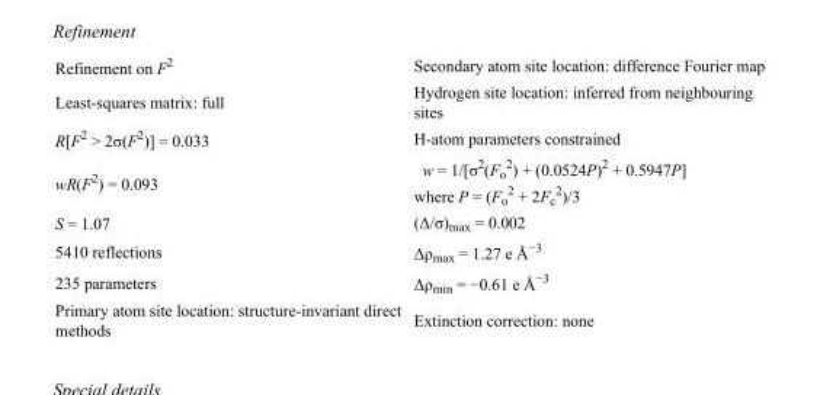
<table><tbody><tr><td>Refinement on F<sup>2</sup></td><td>Secondary atom site location: difference Fourier map</td></tr><tr><td>Least-squares matrix: full</td><td>Hydrogen site location: inferred from neighbouring sites</td></tr><tr><td>R[F<sup>2</sup> &gt; 2σ(F<sup>2</sup>)] = 0.033</td><td>H-atom parameters constrained</td></tr><tr><td>wR(F<sup>2</sup>) = 0.093</td><td>w = 1/[σ<sup>2</sup>(F<sub>o</sub> <sup>2</sup>) + (0.0524P)<sup>2</sup> + 0.5947P] where P = (F<sub>o</sub> <sup>2</sup> + 2F<sub>c</sub> <sup>2</sup>)/3</td></tr><tr><td>S = 1.07</td><td>(Δ/σ)<sub>max</sub> = 0.002</td></tr><tr><td>5410 reflections</td><td>Δρ<sub>max</sub> = 1.27 e Å<sup>−3</sup></td></tr><tr><td>235 parameters</td><td>Δρ<sub>min</sub> = −0.61 e Å<sup>−3</sup></td></tr><tr><td>Primary atom site location: structure-invariant direct methods</td><td>Extinction correction: none</td></tr></tbody></table>